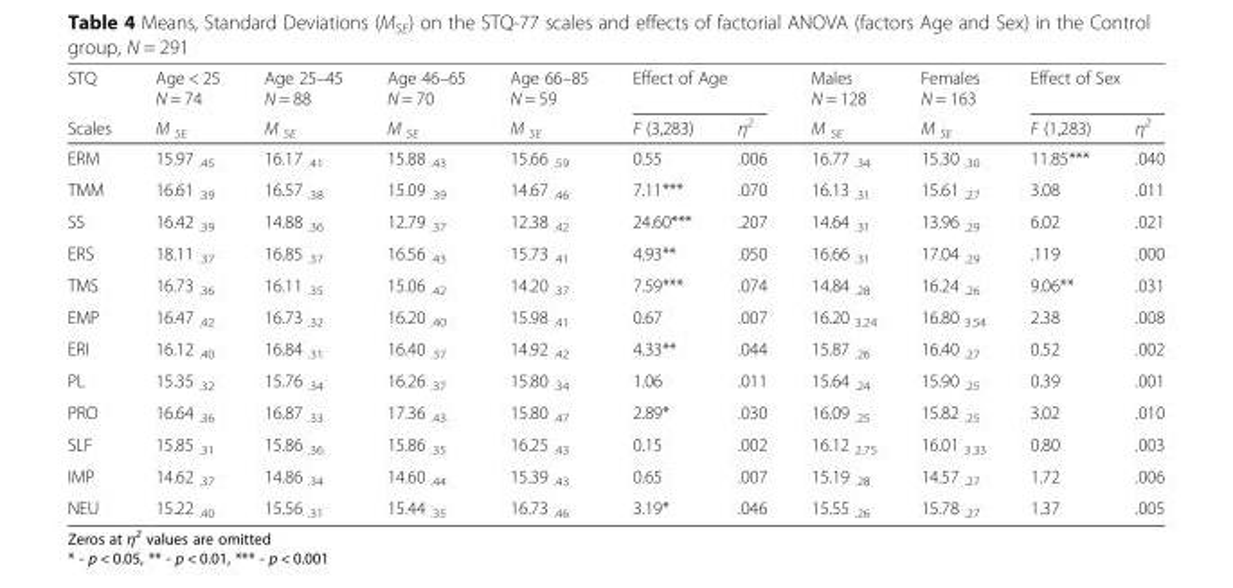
<table><thead><tr><td rowspan="2">STQ Scales</td><td rowspan="2">Age &lt; 25 N = 74 M <sub>SE</sub></td><td rowspan="2">Age 25–45 N = 88 M <sub>SE</sub></td><td rowspan="2">Age 46–65 N = 70 M <sub>SE</sub></td><td rowspan="2">Age 66–85 N = 59 M <sub>SE</sub></td><td colspan="2">Effect of Age</td><td rowspan="2">Males N = 128 M <sub>SE</sub></td><td rowspan="2">Females N = 163 M <sub>SE</sub></td><td colspan="2">Effect of Sex</td></tr><tr><td>F (3,283)</td><td>η<sup>2</sup></td><td>F (1,283)</td><td>η<sup>2</sup></td></tr></thead><tbody><tr><td>ERM</td><td>15.97 <sub>.45</sub></td><td>16.17 <sub>.41</sub></td><td>15.88 <sub>.43</sub></td><td>15.66 <sub>.59</sub></td><td>0.55</td><td>.006</td><td>16.77 <sub>.34</sub></td><td>15.30 <sub>.30</sub></td><td>11.85***</td><td>.040</td></tr><tr><td>TMM</td><td>16.61 <sub>.39</sub></td><td>16.57 <sub>.38</sub></td><td>15.09 <sub>.39</sub></td><td>14.67 <sub>.46</sub></td><td>7.11***</td><td>.070</td><td>16.13 <sub>.31</sub></td><td>15.61 <sub>.27</sub></td><td>3.08</td><td>.011</td></tr><tr><td>SS</td><td>16.42 <sub>.39</sub></td><td>14.88 <sub>.36</sub></td><td>12.79 <sub>.37</sub></td><td>12.38 <sub>.42</sub></td><td>24.60***</td><td>.207</td><td>14.64 <sub>.31</sub></td><td>13.96 <sub>.29</sub></td><td>6.02</td><td>.021</td></tr><tr><td>ERS</td><td>18.11 <sub>.37</sub></td><td>16.85 <sub>.37</sub></td><td>16.56 <sub>.43</sub></td><td>15.73 <sub>.41</sub></td><td>4.93**</td><td>.050</td><td>16.66 <sub>.31</sub></td><td>17.04 <sub>.29</sub></td><td>.119</td><td>.000</td></tr><tr><td>TMS</td><td>16.73 <sub>.36</sub></td><td>16.11 <sub>.35</sub></td><td>15.06 <sub>.42</sub></td><td>14.20 <sub>.37</sub></td><td>7.59***</td><td>.074</td><td>14.84 <sub>.28</sub></td><td>16.24 <sub>.26</sub></td><td>9.06**</td><td>.031</td></tr><tr><td>EMP</td><td>16.47 <sub>.42</sub></td><td>16.73 <sub>.32</sub></td><td>16.20 <sub>.40</sub></td><td>15.98 <sub>.41</sub></td><td>0.67</td><td>.007</td><td>16.20 <sub>3.24</sub></td><td>16.80 <sub>3.54</sub></td><td>2.38</td><td>.008</td></tr><tr><td>ERI</td><td>16.12 <sub>.40</sub></td><td>16.84 <sub>.31</sub></td><td>16.40 <sub>.37</sub></td><td>14.92 <sub>.42</sub></td><td>4.33**</td><td>.044</td><td>15.87 <sub>.26</sub></td><td>16.40 <sub>.27</sub></td><td>0.52</td><td>.002</td></tr><tr><td>PL</td><td>15.35 <sub>.32</sub></td><td>15.76 <sub>.34</sub></td><td>16.26 <sub>.37</sub></td><td>15.80 <sub>.34</sub></td><td>1.06</td><td>.011</td><td>15.64 <sub>.24</sub></td><td>15.90 <sub>.25</sub></td><td>0.39</td><td>.001</td></tr><tr><td>PRO</td><td>16.64 <sub>.36</sub></td><td>16.87 <sub>.33</sub></td><td>17.36 <sub>.43</sub></td><td>15.80 <sub>.47</sub></td><td>2.89*</td><td>.030</td><td>16.09 <sub>.25</sub></td><td>15.82 <sub>.25</sub></td><td>3.02</td><td>.010</td></tr><tr><td>SLF</td><td>15.85 <sub>.31</sub></td><td>15.86 <sub>.36</sub></td><td>15.86 <sub>.35</sub></td><td>16.25 <sub>.43</sub></td><td>0.15</td><td>.002</td><td>16.12 <sub>2.75</sub></td><td>16.01 <sub>3.33</sub></td><td>0.80</td><td>.003</td></tr><tr><td>IMP</td><td>14.62 <sub>.37</sub></td><td>14.86 <sub>.34</sub></td><td>14.60 <sub>.44</sub></td><td>15.39 <sub>.43</sub></td><td>0.65</td><td>.007</td><td>15.19 <sub>.28</sub></td><td>14.57 <sub>.27</sub></td><td>1.72</td><td>.006</td></tr><tr><td>NEU</td><td>15.22 <sub>.40</sub></td><td>15.56 <sub>.31</sub></td><td>15.44 <sub>.35</sub></td><td>16.73 <sub>.46</sub></td><td>3.19*</td><td>.046</td><td>15.55 <sub>.26</sub></td><td>15.78 <sub>.27</sub></td><td>1.37</td><td>.005</td></tr></tbody></table>